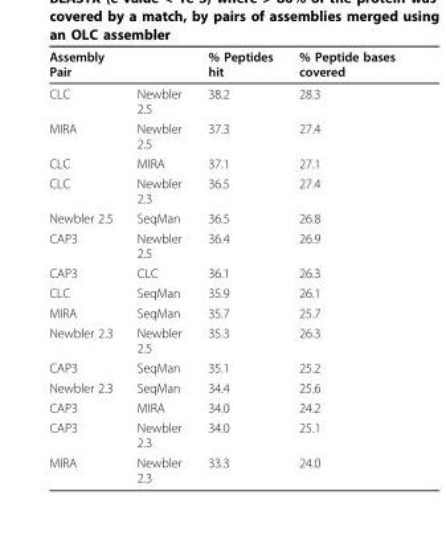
<table><thead><tr><td>Assembly Pair</td><td></td><td>% Peptides hit</td><td>% Peptide bases covered</td></tr></thead><tbody><tr><td>CLC</td><td>Newbler 2.5</td><td>38.2</td><td>28.3</td></tr><tr><td>MIRA</td><td>Newbler 2.5</td><td>37.3</td><td>27.4</td></tr><tr><td>CLC</td><td>MIRA</td><td>37.1</td><td>27.1</td></tr><tr><td>CLC</td><td>Newbler 2.3</td><td>36.5</td><td>27.4</td></tr><tr><td>Newbler 2.5</td><td>SeqMan</td><td>36.5</td><td>26.8</td></tr><tr><td>CAP3</td><td>Newbler 2.5</td><td>36.4</td><td>26.9</td></tr><tr><td>CAP3</td><td>CLC</td><td>36.1</td><td>26.3</td></tr><tr><td>CLC</td><td>SeqMan</td><td>35.9</td><td>26.1</td></tr><tr><td>MIRA</td><td>SeqMan</td><td>35.7</td><td>25.7</td></tr><tr><td>Newbler 2.3</td><td>Newbler 2.5</td><td>35.3</td><td>26.3</td></tr><tr><td>CAP3</td><td>SeqMan</td><td>35.1</td><td>25.2</td></tr><tr><td>Newbler 2.3</td><td>SeqMan</td><td>34.4</td><td>25.6</td></tr><tr><td>CAP3</td><td>MIRA</td><td>34.0</td><td>24.2</td></tr><tr><td>CAP3</td><td>Newbler 2.3</td><td>34.0</td><td>25.1</td></tr><tr><td>MIRA</td><td>Newbler 2.3</td><td>33.3</td><td>24.0</td></tr></tbody></table>